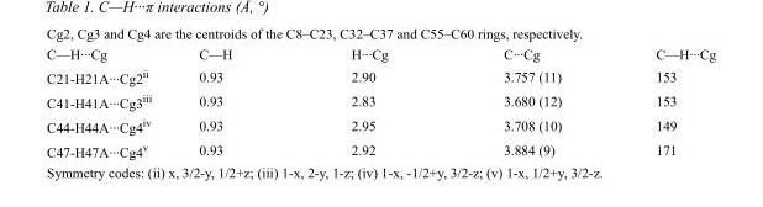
<table><tbody><tr><td>C—H···Cg</td><td>C—H</td><td>H···Cg</td><td>C···Cg</td><td>C—H···Cg</td></tr><tr><td>C21-H21A···Cg2<sup>ii</sup></td><td>0.93</td><td>2.90</td><td>3.757 (11)</td><td>153</td></tr><tr><td>C41-H41A···Cg3<sup>iii</sup></td><td>0.93</td><td>2.83</td><td>3.680 (12)</td><td>153</td></tr><tr><td>C44-H44A···Cg4<sup>iv</sup></td><td>0.93</td><td>2.95</td><td>3.708 (10)</td><td>149</td></tr><tr><td>C47-H47A···Cg4<sup>v</sup></td><td>0.93</td><td>2.92</td><td>3.884 (9)</td><td>171</td></tr></tbody></table>